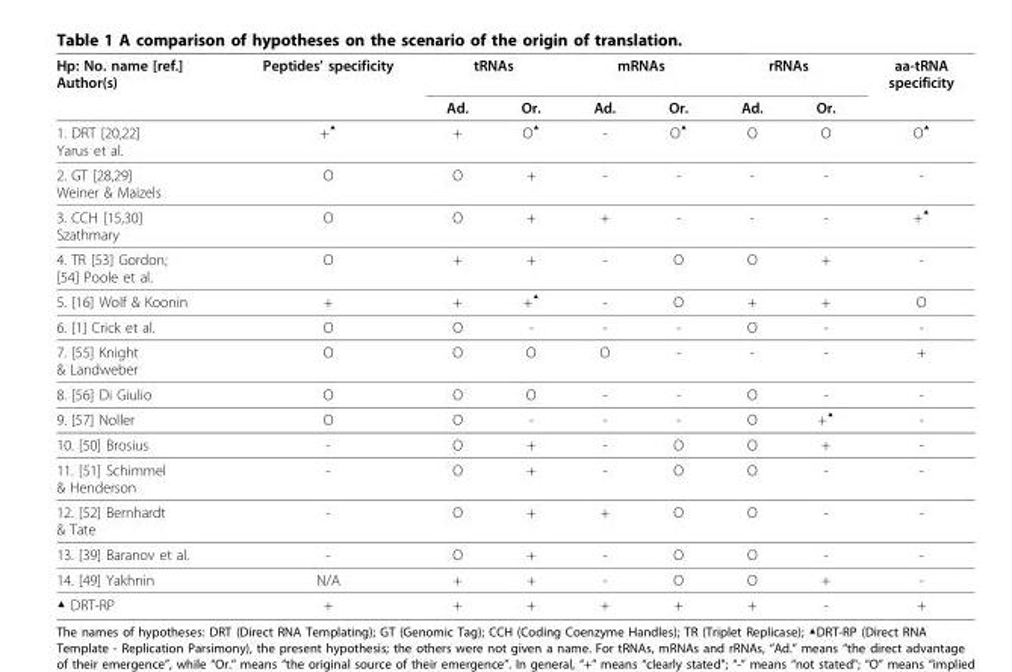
<table><thead><tr><td rowspan="2">Hp: No. name [ref.] Author(s)</td><td rowspan="2">Peptides’ specificity</td><td colspan="2">tRNAs</td><td colspan="2">mRNAs</td><td colspan="2">rRNAs</td><td rowspan="2">aa-tRNA specificity</td></tr><tr><td>Ad.</td><td>Or.</td><td>Ad.</td><td>Or.</td><td>Ad.</td><td>Or.</td></tr></thead><tbody><tr><td>1. DRT [20,22] Yarus et al.</td><td>+<sup>▲</sup></td><td>+</td><td>O<sup>▲</sup></td><td>-</td><td>O<sup>▲</sup></td><td>O</td><td>O</td><td>O<sup>▲</sup></td></tr><tr><td>2. GT [28,29] Weiner &amp; Maizels</td><td>O</td><td>O</td><td>+</td><td>-</td><td>-</td><td>-</td><td>-</td><td>-</td></tr><tr><td>3. CCH [15,30] Szathmary</td><td>O</td><td>O</td><td>+</td><td>+</td><td>-</td><td>-</td><td>-</td><td>+<sup>▲</sup></td></tr><tr><td>4. TR [53] Gordon; [54] Poole et al.</td><td>O</td><td>+</td><td>+</td><td>-</td><td>O</td><td>O</td><td>+</td><td>-</td></tr><tr><td>5. [16] Wolf &amp; Koonin</td><td>+</td><td>+</td><td>+<sup>▲</sup></td><td>-</td><td>O</td><td>+</td><td>+</td><td>O</td></tr><tr><td>6. [1] Crick et al.</td><td>O</td><td>O</td><td>-</td><td>-</td><td>-</td><td>O</td><td>-</td><td>-</td></tr><tr><td>7. [55] Knight &amp; Landweber</td><td>O</td><td>O</td><td>O</td><td>O</td><td>-</td><td>-</td><td>-</td><td>+</td></tr><tr><td>8. [56] Di Giulio</td><td>O</td><td>O</td><td>O</td><td>-</td><td>-</td><td>O</td><td>-</td><td>-</td></tr><tr><td>9. [57] Noller</td><td>O</td><td>O</td><td>-</td><td>-</td><td>-</td><td>O</td><td>+<sup>▲</sup></td><td>-</td></tr><tr><td>10. [50] Brosius</td><td>-</td><td>O</td><td>+</td><td>-</td><td>O</td><td>O</td><td>+</td><td>-</td></tr><tr><td>11. [51] Schimmel &amp; Henderson</td><td>-</td><td>O</td><td>+</td><td>-</td><td>O</td><td>O</td><td>-</td><td>-</td></tr><tr><td>12. [52] Bernhardt &amp; Tate</td><td>-</td><td>O</td><td>+</td><td>+</td><td>O</td><td>O</td><td>-</td><td>-</td></tr><tr><td>13. [39] Baranov et al.</td><td>-</td><td>O</td><td>+</td><td>-</td><td>O</td><td>O</td><td>-</td><td>-</td></tr><tr><td>14. [49] Yakhnin</td><td>N/A</td><td>+</td><td>+</td><td>-</td><td>O</td><td>O</td><td>+</td><td>-</td></tr><tr><td>▲ DRT-RP</td><td>+</td><td>+</td><td>+</td><td>+</td><td>+</td><td>+</td><td>-</td><td>+</td></tr></tbody></table>